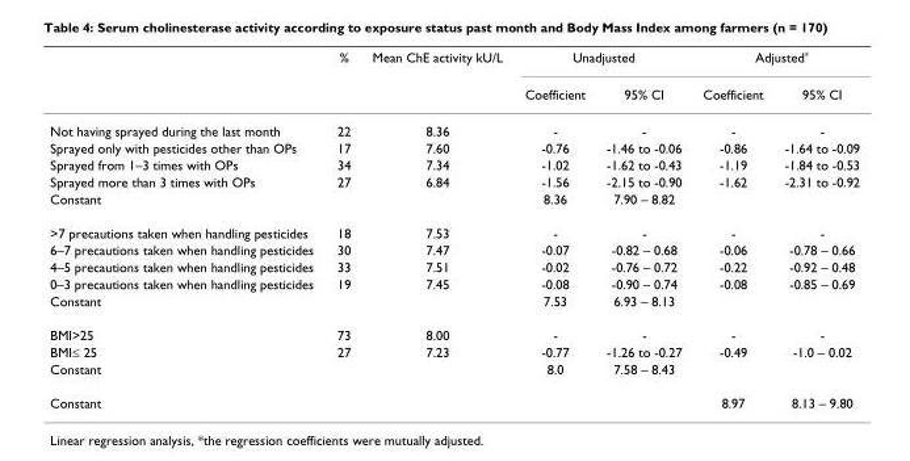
<table><thead><tr><td rowspan="2"></td><td rowspan="2">%</td><td rowspan="2">Mean ChE activity kU/L</td><td colspan="2">Unadjusted</td><td colspan="2">Adjusted*</td></tr><tr><td>Coefficient</td><td>95% CI</td><td>Coefficient</td><td>95% CI</td></tr></thead><tbody><tr><td>Not having sprayed during the last month</td><td>22</td><td>8.36</td><td>-</td><td>-</td><td>-</td><td>-</td></tr><tr><td>Sprayed only with pesticides other than OPs</td><td>17</td><td>7.60</td><td>-0.76</td><td>-1.46 to -0.06</td><td>-0.86</td><td>-1.64 to -0.09</td></tr><tr><td>Sprayed from 1–3 times with OPs</td><td>34</td><td>7.34</td><td>-1.02</td><td>-1.62 to -0.43</td><td>-1.19</td><td>-1.84 to -0.53</td></tr><tr><td>Sprayed more than 3 times with OPs</td><td>27</td><td>6.84</td><td>-1.56</td><td>-2.15 to -0.90</td><td>-1.62</td><td>-2.31 to -0.92</td></tr><tr><td>Constant</td><td></td><td></td><td>8.36</td><td>7.90 – 8.82</td><td></td><td></td></tr><tr><td>&gt;7 precautions taken when handling pesticides</td><td>18</td><td>7.53</td><td>-</td><td>-</td><td>-</td><td>-</td></tr><tr><td>6–7 precautions taken when handling pesticides</td><td>30</td><td>7.47</td><td>-0.07</td><td>-0.82 – 0.68</td><td>-0.06</td><td>-0.78 – 0.66</td></tr><tr><td>4–5 precautions taken when handling pesticides</td><td>33</td><td>7.51</td><td>-0.02</td><td>-0.76 – 0.72</td><td>-0.22</td><td>-0.92 – 0.48</td></tr><tr><td>0–3 precautions taken when handling pesticides</td><td>19</td><td>7.45</td><td>-0.08</td><td>-0.90 – 0.74</td><td>-0.08</td><td>-0.85 – 0.69</td></tr><tr><td>Constant</td><td></td><td></td><td>7.53</td><td>6.93 – 8.13</td><td></td><td></td></tr><tr><td>BMI&gt;25</td><td>73</td><td>8.00</td><td>-</td><td>-</td><td>-</td><td>-</td></tr><tr><td>BMI≤ 25</td><td>27</td><td>7.23</td><td>-0.77</td><td>-1.26 to -0.27</td><td>-0.49</td><td>-1.0 – 0.02</td></tr><tr><td>Constant</td><td></td><td></td><td>8.0</td><td>7.58 – 8.43</td><td></td><td></td></tr><tr><td>Constant</td><td></td><td></td><td></td><td></td><td>8.97</td><td>8.13 – 9.80</td></tr></tbody></table>